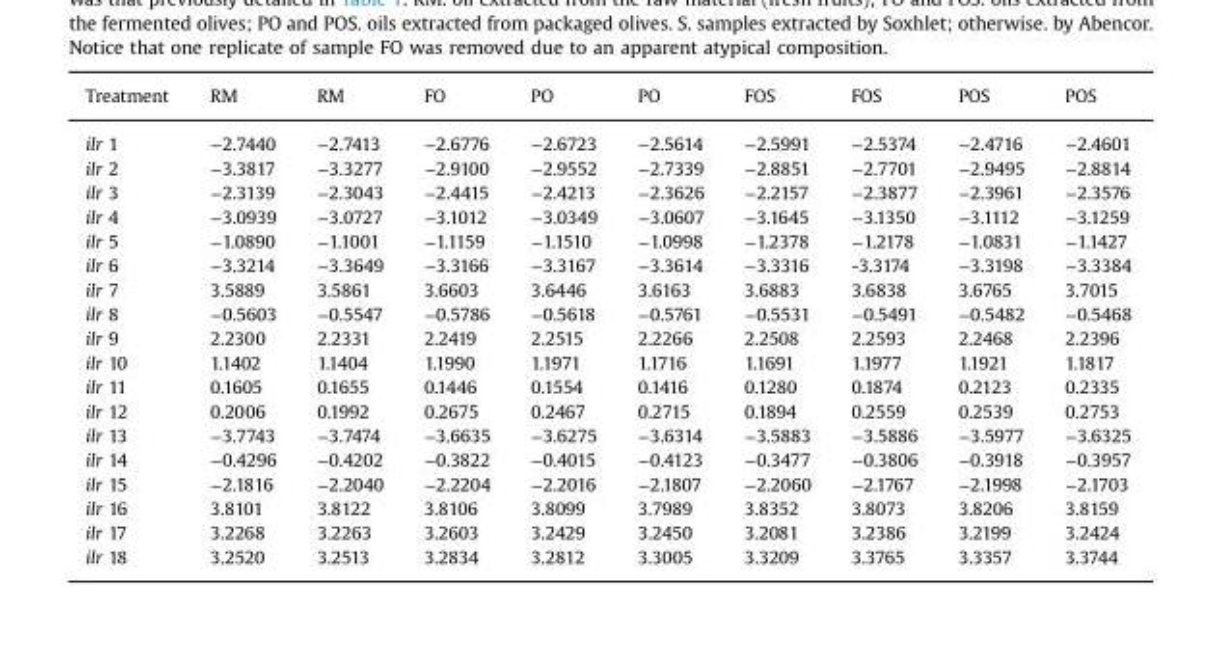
<table><thead><tr><td>Treatment</td><td>RM</td><td>RM</td><td>FO</td><td>PO</td><td>PO</td><td>FOS</td><td>FOS</td><td>POS</td><td>POS</td></tr></thead><tbody><tr><td>ilr 1</td><td>−2.7440</td><td>−2.7413</td><td>−2.6776</td><td>−2.6723</td><td>−2.5614</td><td>−2.5991</td><td>−2.5374</td><td>−2.4716</td><td>−2.4601</td></tr><tr><td>ilr 2</td><td>−3.3817</td><td>−3.3277</td><td>−2.9100</td><td>−2.9552</td><td>−2.7339</td><td>−2.8851</td><td>−2.7701</td><td>−2.9495</td><td>−2.8814</td></tr><tr><td>ilr 3</td><td>−2.3139</td><td>−2.3043</td><td>−2.4415</td><td>−2.4213</td><td>−2.3626</td><td>−2.2157</td><td>−2.3877</td><td>−2.3961</td><td>−2.3576</td></tr><tr><td>ilr 4</td><td>−3.0939</td><td>−3.0727</td><td>−3.1012</td><td>−3.0349</td><td>−3.0607</td><td>−3.1645</td><td>−3.1350</td><td>−3.1112</td><td>−3.1259</td></tr><tr><td>ilr 5</td><td>−1.0890</td><td>−1.1001</td><td>−1.1159</td><td>−1.1510</td><td>−1.0998</td><td>−1.2378</td><td>−1.2178</td><td>−1.0831</td><td>−1.1427</td></tr><tr><td>ilr 6</td><td>−3.3214</td><td>−3.3649</td><td>−3.3166</td><td>−3.3167</td><td>−3.3614</td><td>−3.3316</td><td>-3.3174</td><td>−3.3198</td><td>−3.3384</td></tr><tr><td>ilr 7</td><td>3.5889</td><td>3.5861</td><td>3.6603</td><td>3.6446</td><td>3.6163</td><td>3.6883</td><td>3.6838</td><td>3.6765</td><td>3.7015</td></tr><tr><td>ilr 8</td><td>−0.5603</td><td>−0.5547</td><td>−0.5786</td><td>−0.5618</td><td>−0.5761</td><td>−0.5531</td><td>−0.5491</td><td>−0.5482</td><td>−0.5468</td></tr><tr><td>ilr 9</td><td>2.2300</td><td>2.2331</td><td>2.2419</td><td>2.2515</td><td>2.2266</td><td>2.2508</td><td>2.2593</td><td>2.2468</td><td>2.2396</td></tr><tr><td>ilr 10</td><td>1.1402</td><td>1.1404</td><td>1.1990</td><td>1.1971</td><td>1.1716</td><td>1.1691</td><td>1.1977</td><td>1.1921</td><td>1.1817</td></tr><tr><td>ilr 11</td><td>0.1605</td><td>0.1655</td><td>0.1446</td><td>0.1554</td><td>0.1416</td><td>0.1280</td><td>0.1874</td><td>0.2123</td><td>0.2335</td></tr><tr><td>ilr 12</td><td>0.2006</td><td>0.1992</td><td>0.2675</td><td>0.2467</td><td>0.2715</td><td>0.1894</td><td>0.2559</td><td>0.2539</td><td>0.2753</td></tr><tr><td>ilr 13</td><td>−3.7743</td><td>−3.7474</td><td>−3.6635</td><td>−3.6275</td><td>−3.6314</td><td>−3.5883</td><td>−3.5886</td><td>−3.5977</td><td>−3.6325</td></tr><tr><td>ilr 14</td><td>−0.4296</td><td>−0.4202</td><td>−0.3822</td><td>−0.4015</td><td>−0.4123</td><td>−0.3477</td><td>−0.3806</td><td>−0.3918</td><td>−0.3957</td></tr><tr><td>ilr 15</td><td>−2.1816</td><td>−2.2040</td><td>−2.2204</td><td>−2.2016</td><td>−2.1807</td><td>−2.2060</td><td>−2.1767</td><td>−2.1998</td><td>−2.1703</td></tr><tr><td>ilr 16</td><td>3.8101</td><td>3.8122</td><td>3.8106</td><td>3.8099</td><td>3.7989</td><td>3.8352</td><td>3.8073</td><td>3.8206</td><td>3.8159</td></tr><tr><td>ilr 17</td><td>3.2268</td><td>3.2263</td><td>3.2603</td><td>3.2429</td><td>3.2450</td><td>3.2081</td><td>3.2386</td><td>3.2199</td><td>3.2424</td></tr><tr><td>ilr 18</td><td>3.2520</td><td>3.2513</td><td>3.2834</td><td>3.2812</td><td>3.3005</td><td>3.3209</td><td>3.3765</td><td>3.3357</td><td>3.3744</td></tr></tbody></table>